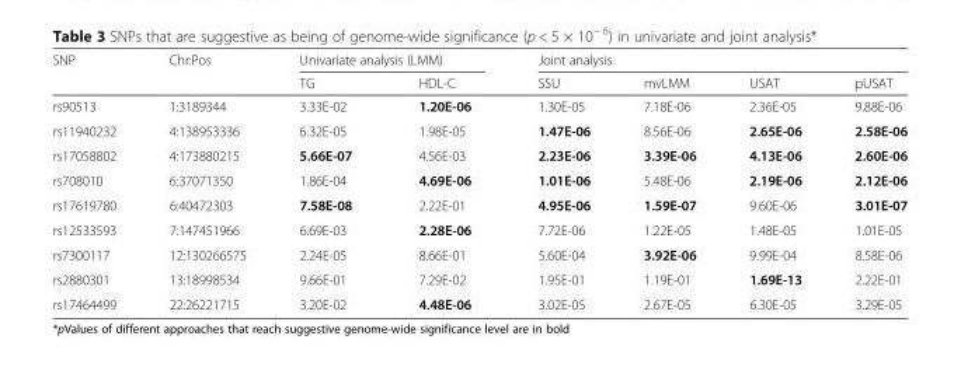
<table><thead><tr><td rowspan="2">SNP</td><td rowspan="2">Chr:Pos</td><td colspan="2">Univariate analysis (LMM)</td><td colspan="4">Joint analysis</td></tr><tr><td>TG</td><td>HDL-C</td><td>SSU</td><td>mvLMM</td><td>USAT</td><td>pUSAT</td></tr></thead><tbody><tr><td>rs90513</td><td>1:3189344</td><td>3.33E-02</td><td>1.20E-06</td><td>1.30E-05</td><td>7.18E-06</td><td>2.36E-05</td><td>9.88E-06</td></tr><tr><td>rs11940232</td><td>4:138953336</td><td>6.32E-05</td><td>1.98E-05</td><td>1.47E-06</td><td>8.56E-06</td><td>2.65E-06</td><td>2.58E-06</td></tr><tr><td>rs17058802</td><td>4:173880215</td><td>5.66E-07</td><td>4.56E-03</td><td>2.23E-06</td><td>3.39E-06</td><td>4.13E-06</td><td>2.60E-06</td></tr><tr><td>rs708010</td><td>6:37071350</td><td>1.86E-04</td><td>4.69E-06</td><td>1.01E-06</td><td>5.48E-06</td><td>2.19E-06</td><td>2.12E-06</td></tr><tr><td>rs17619780</td><td>6:40472303</td><td>7.58E-08</td><td>2.22E-01</td><td>4.95E-06</td><td>1.59E-07</td><td>9.60E-06</td><td>3.01E-07</td></tr><tr><td>rs12533593</td><td>7:147451966</td><td>6.69E-03</td><td>2.28E-06</td><td>7.72E-06</td><td>1.22E-05</td><td>1.48E-05</td><td>1.01E-05</td></tr><tr><td>rs7300117</td><td>12:130266575</td><td>2.24E-05</td><td>8.66E-01</td><td>5.60E-04</td><td>3.92E-06</td><td>9.99E-04</td><td>8.58E-06</td></tr><tr><td>rs2880301</td><td>13:18998534</td><td>9.66E-01</td><td>7.29E-02</td><td>1.95E-01</td><td>1.19E-01</td><td>1.69E-13</td><td>2.22E-01</td></tr><tr><td>rs17464499</td><td>22:26221715</td><td>3.20E-02</td><td>4.48E-06</td><td>3.02E-05</td><td>2.67E-05</td><td>6.30E-05</td><td>3.29E-05</td></tr></tbody></table>